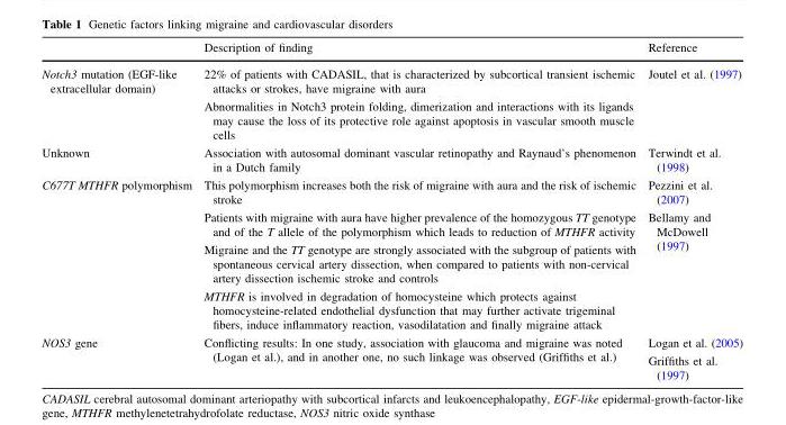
<table><thead><tr><td></td><td>Description of finding</td><td>Reference</td></tr></thead><tbody><tr><td>Notch3 mutation (EGF-like extracellular domain)</td><td>22% of patients with CADASIL, that is characterized by subcortical transient ischemic attacks or strokes, have migraine with aura Abnormalities in Notch3 protein folding, dimerization and interactions with its ligands may cause the loss of its protective role against apoptosis in vascular smooth muscle cells</td><td>Joutel et al. (1997)</td></tr><tr><td>Unknown</td><td>Association with autosomal dominant vascular retinopathy and Raynaud’s phenomenon in a Dutch family</td><td>Terwindt et al. (1998)</td></tr><tr><td>C677T MTHFR polymorphism</td><td>This polymorphism increases both the risk of migraine with aura and the risk of ischemic stroke Patients with migraine with aura have higher prevalence of the homozygous TT genotype and of the T allele of the polymorphism which leads to reduction of MTHFR activity Migraine and the TT genotype are strongly associated with the subgroup of patients with spontaneous cervical artery dissection, when compared to patients with non-cervical artery dissection ischemic stroke and controls MTHFR is involved in degradation of homocysteine which protects against homocysteine-related endothelial dysfunction that may further activate trigeminal fibers, induce inflammatory reaction, vasodilatation and finally migraine attack</td><td>Pezzini et al. (2007) Bellamy and McDowell (1997)</td></tr><tr><td>NOS3 gene</td><td>Conflicting results: In one study, association with glaucoma and migraine was noted (Logan et al.), and in another one, no such linkage was observed (Griffiths et al.)</td><td>Logan et al. (2005) Griffiths et al. (1997)</td></tr></tbody></table>